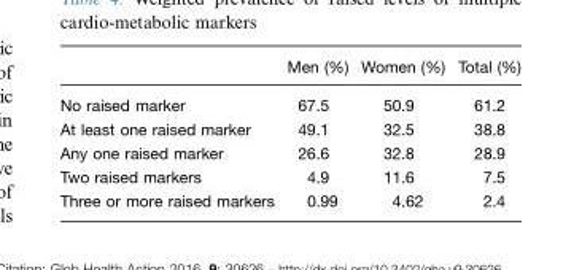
<table><thead><tr><td></td><td>Men (%)</td><td>Women (%)</td><td>Total (%)</td></tr></thead><tbody><tr><td>No raised marker</td><td>67.5</td><td>50.9</td><td>61.2</td></tr><tr><td>At least one raised marker</td><td>49.1</td><td>32.5</td><td>38.8</td></tr><tr><td>Any one raised marker</td><td>26.6</td><td>32.8</td><td>28.9</td></tr><tr><td>Two raised markers</td><td>4.9</td><td>11.6</td><td>7.5</td></tr><tr><td>Three or more raised markers</td><td>0.99</td><td>4.62</td><td>2.4</td></tr></tbody></table>